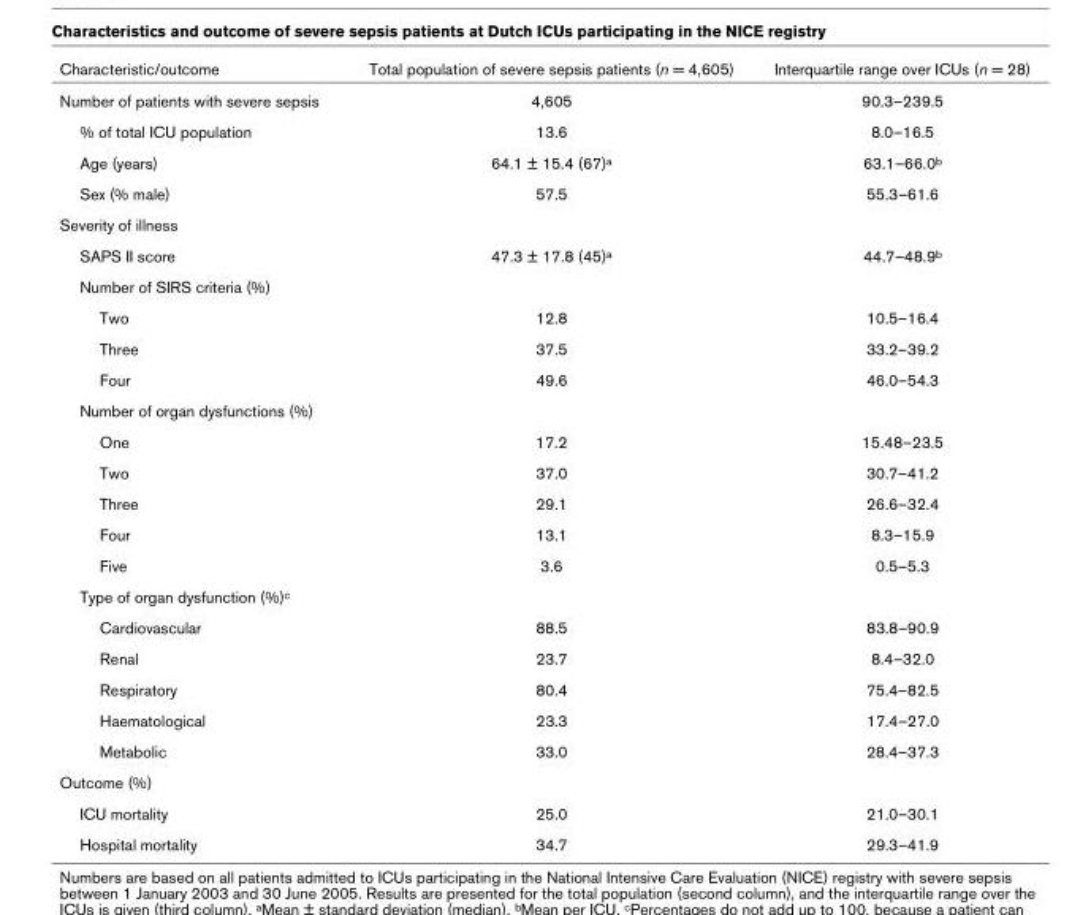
<table><thead><tr><td>Characteristic/outcome</td><td>Total population of severe sepsis patients (n = 4,605)</td><td>Interquartile range over ICUs (n = 28)</td></tr></thead><tbody><tr><td>Number of patients with severe sepsis</td><td>4,605</td><td>90.3–239.5</td></tr><tr><td>% of total ICU population</td><td>13.6</td><td>8.0–16.5</td></tr><tr><td>Age (years)</td><td>64.1 ± 15.4 (67)<sup>a</sup></td><td>63.1–66.0<sup>b</sup></td></tr><tr><td>Sex (% male)</td><td>57.5</td><td>55.3–61.6</td></tr><tr><td colspan="3">Severity of illness</td></tr><tr><td>SAPS II score</td><td>47.3 ± 17.8 (45)<sup>a</sup></td><td>44.7–48.9<sup>b</sup></td></tr><tr><td colspan="3">Number of SIRS criteria (%)</td></tr><tr><td>Two</td><td>12.8</td><td>10.5–16.4</td></tr><tr><td>Three</td><td>37.5</td><td>33.2–39.2</td></tr><tr><td>Four</td><td>49.6</td><td>46.0–54.3</td></tr><tr><td colspan="3">Number of organ dysfunctions (%)</td></tr><tr><td>One</td><td>17.2</td><td>15.48–23.5</td></tr><tr><td>Two</td><td>37.0</td><td>30.7–41.2</td></tr><tr><td>Three</td><td>29.1</td><td>26.6–32.4</td></tr><tr><td>Four</td><td>13.1</td><td>8.3–15.9</td></tr><tr><td>Five</td><td>3.6</td><td>0.5–5.3</td></tr><tr><td colspan="3">Type of organ dysfunction (%)<sup>c</sup></td></tr><tr><td>Cardiovascular</td><td>88.5</td><td>83.8–90.9</td></tr><tr><td>Renal</td><td>23.7</td><td>8.4–32.0</td></tr><tr><td>Respiratory</td><td>80.4</td><td>75.4–82.5</td></tr><tr><td>Haematological</td><td>23.3</td><td>17.4–27.0</td></tr><tr><td>Metabolic</td><td>33.0</td><td>28.4–37.3</td></tr><tr><td colspan="3">Outcome (%)</td></tr><tr><td>ICU mortality</td><td>25.0</td><td>21.0–30.1</td></tr><tr><td>Hospital mortality</td><td>34.7</td><td>29.3–41.9</td></tr></tbody></table>